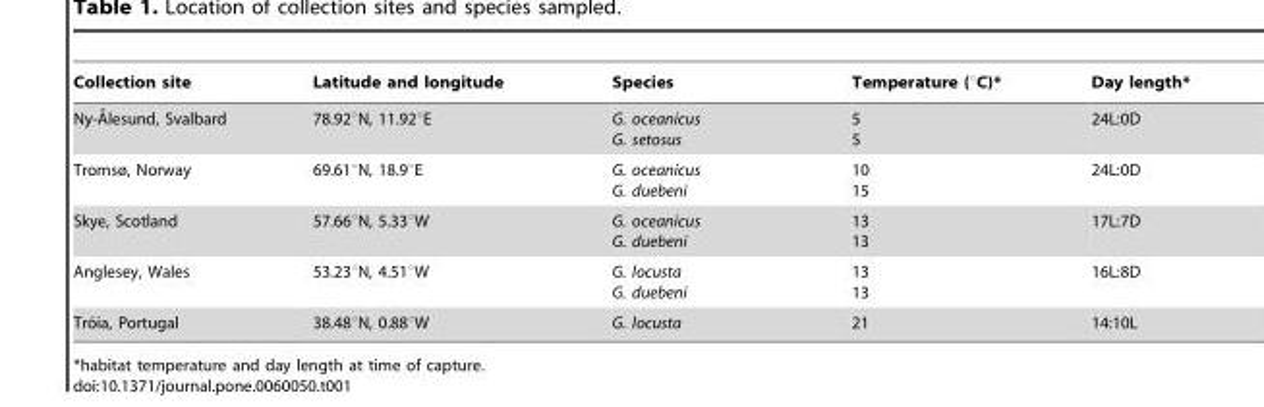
<table><thead><tr><td>Collection site</td><td>Latitude and longitude</td><td>Species</td><td>Temperature (°C)*</td><td>Day length*</td></tr></thead><tbody><tr><td>Ny-A˚lesund, Svalbard</td><td>78.92°N, 11.92°E</td><td>G. oceanicus G. setosus</td><td>5 5</td><td>24L:0D</td></tr><tr><td>Tromsø, Norway</td><td>69.61°N, 18.9°E</td><td>G. oceanicus G. duebeni</td><td>10 15</td><td>24L:0D</td></tr><tr><td>Skye, Scotland</td><td>57.66°N, 5.33°W</td><td>G. oceanicus G. duebeni</td><td>13 13</td><td>17L:7D</td></tr><tr><td>Anglesey, Wales</td><td>53.23°N, 4.51°W</td><td>G. locusta G. duebeni</td><td>13 13</td><td>16L:8D</td></tr><tr><td>Tro´ia, Portugal</td><td>38.48°N, 0.88°W</td><td>G. locusta</td><td>21</td><td>14:10L</td></tr></tbody></table>